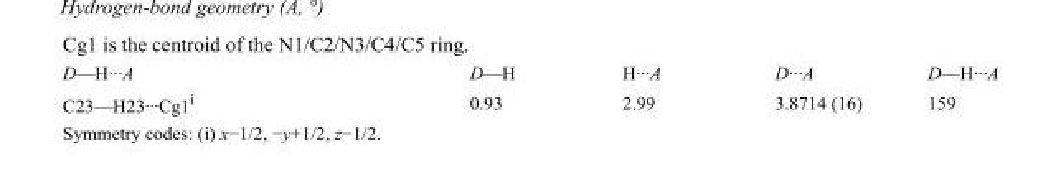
<table><tbody><tr><td>D—H···A</td><td>D—H</td><td>H···A</td><td>D···A</td><td>D—H···A</td></tr><tr><td>C23—H23···Cg1<sup>i</sup></td><td>0.93</td><td>2.99</td><td>3.8714 (16)</td><td>159</td></tr></tbody></table>